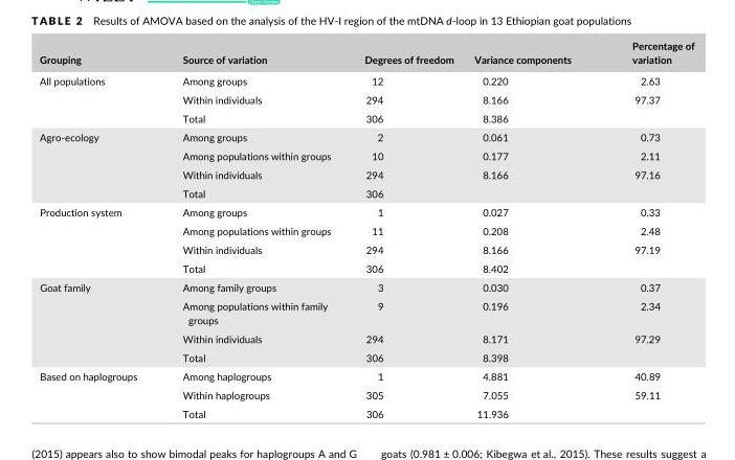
<table><thead><tr><td>Grouping</td><td>Source of variation</td><td>Degrees of freedom</td><td>Variance components</td><td>Percentage of variation</td></tr></thead><tbody><tr><td rowspan="3">All populations</td><td>Among groups</td><td>12</td><td>0.220</td><td>2.63</td></tr><tr><td>Within individuals</td><td>294</td><td>8.166</td><td>97.37</td></tr><tr><td>Total</td><td>306</td><td>8.386</td><td></td></tr><tr><td rowspan="4">Agro- ecology</td><td>Among groups</td><td>2</td><td>0.061</td><td>0.73</td></tr><tr><td>Among populations within groups</td><td>10</td><td>0.177</td><td>2.11</td></tr><tr><td>Within individuals</td><td>294</td><td>8.166</td><td>97.16</td></tr><tr><td>Total</td><td>306</td><td></td><td></td></tr><tr><td rowspan="4">Production system</td><td>Among groups</td><td>1</td><td>0.027</td><td>0.33</td></tr><tr><td>Among populations within groups</td><td>11</td><td>0.208</td><td>2.48</td></tr><tr><td>Within individuals</td><td>294</td><td>8.166</td><td>97.19</td></tr><tr><td>Total</td><td>306</td><td>8.402</td><td></td></tr><tr><td rowspan="4">Goat family</td><td>Among family groups</td><td>3</td><td>0.030</td><td>0.37</td></tr><tr><td>Among populations within family groups</td><td>9</td><td>0.196</td><td>2.34</td></tr><tr><td>Within individuals</td><td>294</td><td>8.171</td><td>97.29</td></tr><tr><td>Total</td><td>306</td><td>8.398</td><td></td></tr><tr><td rowspan="3">Based on haplogroups</td><td>Among haplogroups</td><td>1</td><td>4.881</td><td>40.89</td></tr><tr><td>Within haplogroups</td><td>305</td><td>7.055</td><td>59.11</td></tr><tr><td>Total</td><td>306</td><td>11.936</td><td></td></tr></tbody></table>